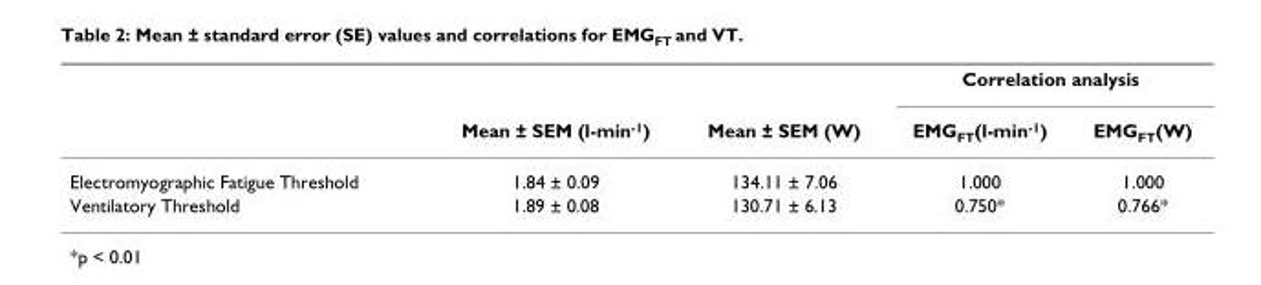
<table><thead><tr><td rowspan="2"></td><td rowspan="2">Mean ± SEM (l-min<sup>-1</sup>)</td><td rowspan="2">Mean ± SEM (W)</td><td colspan="2">Correlation analysis</td></tr><tr><td>EMG<sub>FT</sub>(l-min<sup>-1</sup>)</td><td>EMG<sub>FT</sub>(W)</td></tr></thead><tbody><tr><td>Electromyographic Fatigue Threshold</td><td>1.84 ± 0.09</td><td>134.11 ± 7.06</td><td>1.000</td><td>1.000</td></tr><tr><td>Ventilatory Threshold</td><td>1.89 ± 0.08</td><td>130.71 ± 6.13</td><td>0.750*</td><td>0.766*</td></tr></tbody></table>